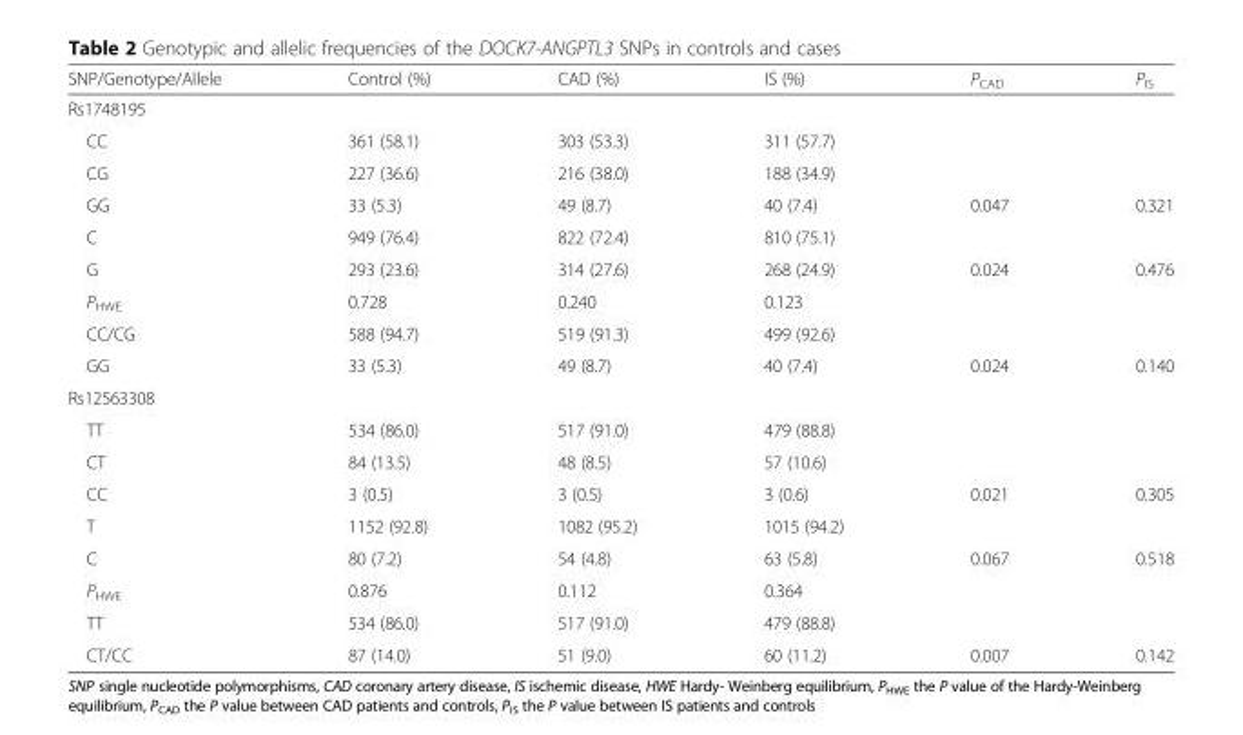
<table><thead><tr><td>SNP/Genotype/Allele</td><td>Control (%)</td><td>CAD (%)</td><td>IS (%)</td><td>P<sub>CAD</sub></td><td>P<sub>IS</sub></td></tr></thead><tbody><tr><td colspan="6">Rs1748195</td></tr><tr><td>CC</td><td>361 (58.1)</td><td>303 (53.3)</td><td>311 (57.7)</td><td></td><td></td></tr><tr><td>CG</td><td>227 (36.6)</td><td>216 (38.0)</td><td>188 (34.9)</td><td></td><td></td></tr><tr><td>GG</td><td>33 (5.3)</td><td>49 (8.7)</td><td>40 (7.4)</td><td>0.047</td><td>0.321</td></tr><tr><td>C</td><td>949 (76.4)</td><td>822 (72.4)</td><td>810 (75.1)</td><td></td><td></td></tr><tr><td>G</td><td>293 (23.6)</td><td>314 (27.6)</td><td>268 (24.9)</td><td>0.024</td><td>0.476</td></tr><tr><td>P<sub>HWE</sub></td><td>0.728</td><td>0.240</td><td>0.123</td><td></td><td></td></tr><tr><td>CC/CG</td><td>588 (94.7)</td><td>519 (91.3)</td><td>499 (92.6)</td><td></td><td></td></tr><tr><td>GG</td><td>33 (5.3)</td><td>49 (8.7)</td><td>40 (7.4)</td><td>0.024</td><td>0.140</td></tr><tr><td colspan="6">Rs12563308</td></tr><tr><td>TT</td><td>534 (86.0)</td><td>517 (91.0)</td><td>479 (88.8)</td><td></td><td></td></tr><tr><td>CT</td><td>84 (13.5)</td><td>48 (8.5)</td><td>57 (10.6)</td><td></td><td></td></tr><tr><td>CC</td><td>3 (0.5)</td><td>3 (0.5)</td><td>3 (0.6)</td><td>0.021</td><td>0.305</td></tr><tr><td>T</td><td>1152 (92.8)</td><td>1082 (95.2)</td><td>1015 (94.2)</td><td></td><td></td></tr><tr><td>C</td><td>80 (7.2)</td><td>54 (4.8)</td><td>63 (5.8)</td><td>0.067</td><td>0.518</td></tr><tr><td>P<sub>HWE</sub></td><td>0.876</td><td>0.112</td><td>0.364</td><td></td><td></td></tr><tr><td>TT</td><td>534 (86.0)</td><td>517 (91.0)</td><td>479 (88.8)</td><td></td><td></td></tr><tr><td>CT/CC</td><td>87 (14.0)</td><td>51 (9.0)</td><td>60 (11.2)</td><td>0.007</td><td>0.142</td></tr></tbody></table>